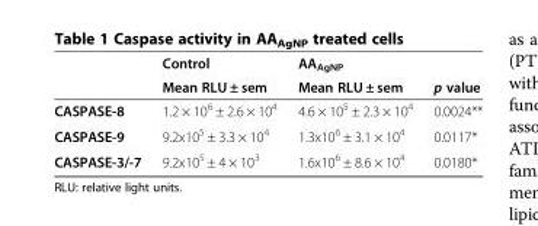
<table><thead><tr><td rowspan="2"></td><td rowspan="2">Control Mean RLU ± sem</td><td rowspan="2">AA<sub>AgNP</sub> Mean RLU ± sem</td><td rowspan="2">p value</td></tr><tr></tr></thead><tbody><tr><td>CASPASE-8</td><td>1.2 × 10<sup>6</sup> ± 2.6 × 10<sup>4</sup></td><td>4.6 × 10<sup>5</sup> ± 2.3 × 10<sup>4</sup></td><td>0.0024**</td></tr><tr><td>CASPASE-9</td><td>9.2x10<sup>5</sup> ± 3.3 × 10<sup>4</sup></td><td>1.3x10<sup>6</sup> ± 3.1 × 10<sup>4</sup></td><td>0.0117*</td></tr><tr><td>CASPASE-3/-7</td><td>9.2x10<sup>5</sup> ± 4 × 10<sup>3</sup></td><td>1.6x10<sup>6</sup> ± 8.6 × 10<sup>4</sup></td><td>0.0180*</td></tr></tbody></table>